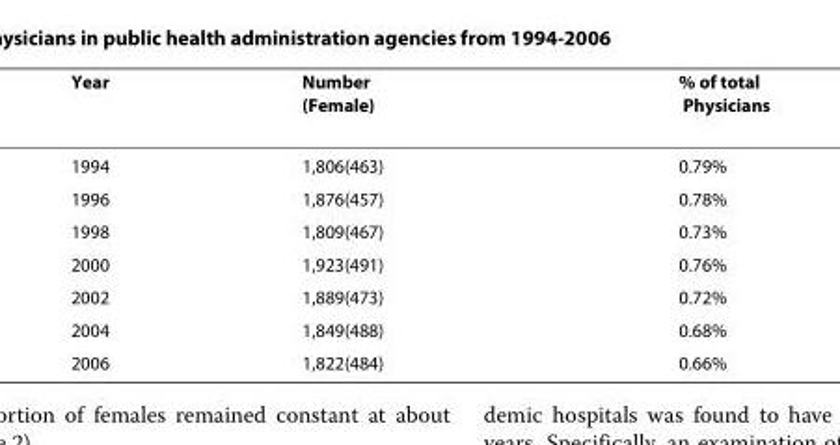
<table><thead><tr><td>Year</td><td>Number (Female)</td><td>% of total Physicians</td></tr></thead><tbody><tr><td>1994</td><td>1,806(463)</td><td>0.79%</td></tr><tr><td>1996</td><td>1,876(457)</td><td>0.78%</td></tr><tr><td>1998</td><td>1,809(467)</td><td>0.73%</td></tr><tr><td>2000</td><td>1,923(491)</td><td>0.76%</td></tr><tr><td>2002</td><td>1,889(473)</td><td>0.72%</td></tr><tr><td>2004</td><td>1,849(488)</td><td>0.68%</td></tr><tr><td>2006</td><td>1,822(484)</td><td>0.66%</td></tr></tbody></table>